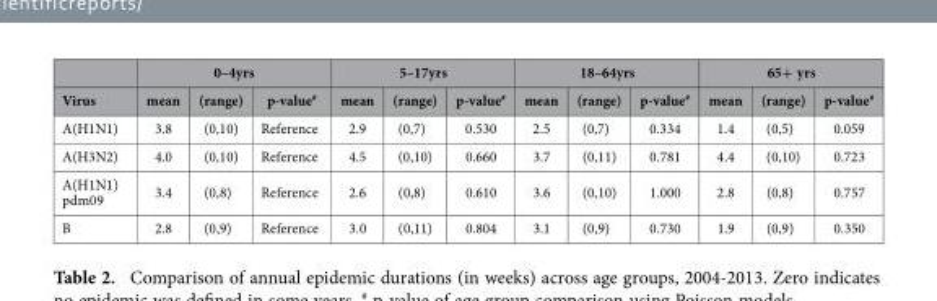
<table><thead><tr><td rowspan="2">Virus</td><td colspan="3">0–4yrs</td><td colspan="3">5–17yrs</td><td colspan="3">18–64yrs</td><td colspan="3">65+ yrs</td></tr><tr><td>mean</td><td>(range)</td><td>p-value<sup>#</sup></td><td>mean</td><td>(range)</td><td>p-value<sup>#</sup></td><td>mean</td><td>(range)</td><td>p-value<sup>#</sup></td><td>mean</td><td>(range)</td><td>p-value<sup>#</sup></td></tr></thead><tbody><tr><td>A(H1N1)</td><td>3.8</td><td>(0,10)</td><td>Reference</td><td>2.9</td><td>(0,7)</td><td>0.530</td><td>2.5</td><td>(0,7)</td><td>0.334</td><td>1.4</td><td>(0,5)</td><td>0.059</td></tr><tr><td>A(H3N2)</td><td>4.0</td><td>(0,10)</td><td>Reference</td><td>4.5</td><td>(0,10)</td><td>0.660</td><td>3.7</td><td>(0,11)</td><td>0.781</td><td>4.4</td><td>(0,10)</td><td>0.723</td></tr><tr><td>A(H1N1) pdm09</td><td>3.4</td><td>(0,8)</td><td>Reference</td><td>2.6</td><td>(0,8)</td><td>0.610</td><td>3.6</td><td>(0,10)</td><td>1.000</td><td>2.8</td><td>(0,8)</td><td>0.757</td></tr><tr><td>B</td><td>2.8</td><td>(0,9)</td><td>Reference</td><td>3.0</td><td>(0,11)</td><td>0.804</td><td>3.1</td><td>(0,9)</td><td>0.730</td><td>1.9</td><td>(0,9)</td><td>0.350</td></tr></tbody></table>